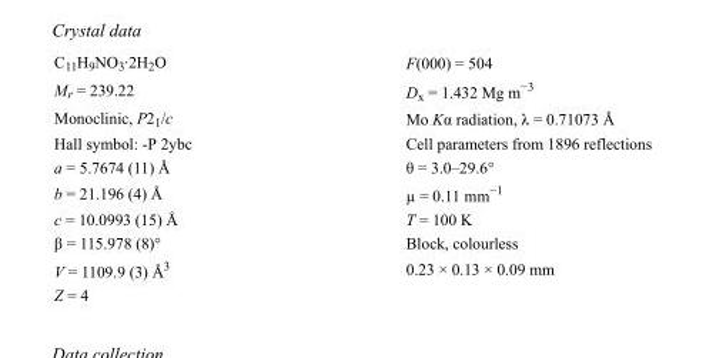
<table><tbody><tr><td>C<sub>11</sub>H<sub>9</sub>NO<sub>3</sub>·2H<sub>2</sub>O</td><td>F(000) = 504</td></tr><tr><td>M<sub>r</sub> = 239.22</td><td>D<sub>x</sub> = 1.432 Mg m<sup>−3</sup></td></tr><tr><td>Monoclinic, P2<sub>1</sub>/c</td><td>Mo Kα radiation, λ = 0.71073 Å</td></tr><tr><td>Hall symbol: -P 2ybc</td><td>Cell parameters from 1896 reflections</td></tr><tr><td>a = 5.7674 (11) Å</td><td>θ = 3.0–29.6°</td></tr><tr><td>b = 21.196 (4) Å</td><td>µ = 0.11 mm<sup>−1</sup></td></tr><tr><td>c = 10.0993 (15) Å</td><td>T = 100 K</td></tr><tr><td>β = 115.978 (8)°</td><td>Block, colourless</td></tr><tr><td>V = 1109.9 (3) Å<sup>3</sup></td><td>0.23 × 0.13 × 0.09 mm</td></tr><tr><td>Z = 4</td><td></td></tr></tbody></table>